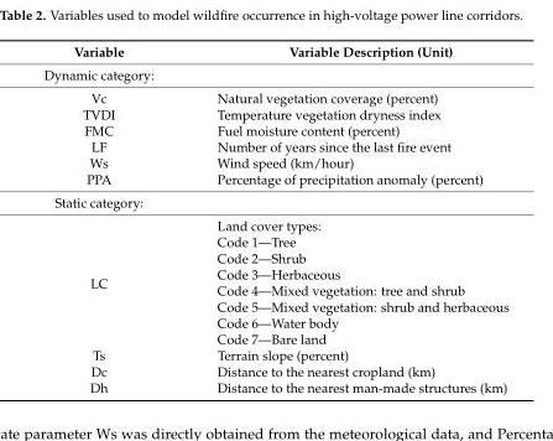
<table><thead><tr><td>Variable</td><td>Variable Description (Unit)</td></tr></thead><tbody><tr><td colspan="2">Dynamic category:</td></tr><tr><td>Vc</td><td>Natural vegetation coverage (percent)</td></tr><tr><td>TVDI</td><td>Temperature vegetation dryness index</td></tr><tr><td>FMC</td><td>Fuel moisture content (percent)</td></tr><tr><td>LF</td><td>Number of years since the last fire event</td></tr><tr><td>Ws</td><td>Wind speed (km/hour)</td></tr><tr><td>PPA</td><td>Percentage of precipitation anomaly (percent)</td></tr><tr><td colspan="2">Static category:</td></tr><tr><td rowspan="8">LC</td><td>Land cover types:</td></tr><tr><td>Code 1—Tree</td></tr><tr><td>Code 2—Shrub</td></tr><tr><td>Code 3—Herbaceous</td></tr><tr><td>Code 4—Mixed vegetation: tree and shrub</td></tr><tr><td>Code 5—Mixed vegetation: shrub and herbaceous</td></tr><tr><td>Code 6—Water body</td></tr><tr><td>Code 7—Bare land</td></tr><tr><td>Ts</td><td>Terrain slope (percent)</td></tr><tr><td>Dc</td><td>Distance to the nearest cropland (km)</td></tr><tr><td>Dh</td><td>Distance to the nearest man-made structures (km)</td></tr></tbody></table>